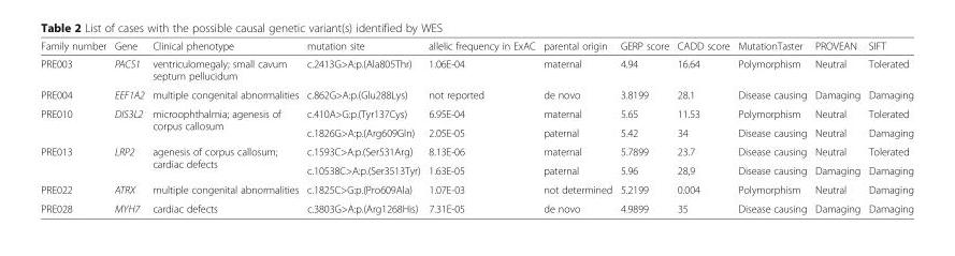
<table><thead><tr><td>Family number</td><td>Gene</td><td>Clinical phenotype</td><td>mutation site</td><td>allelic frequency in ExAC</td><td>parental origin</td><td>GERP score</td><td>CADD score</td><td>MutationTaster</td><td>PROVEAN</td><td>SIFT</td></tr></thead><tbody><tr><td>PRE003</td><td>PACS1</td><td>ventriculomegaly; small cavum septum pellucidum</td><td>c.2413G&gt;A:p.(Ala805Thr)</td><td>1.06E-04</td><td>maternal</td><td>4.94</td><td>16.64</td><td>Polymorphism</td><td>Neutral</td><td>Tolerated</td></tr><tr><td>PRE004</td><td>EEF1A2</td><td>multiple congenital abnormalities</td><td>c.862G&gt;A:p.(Glu288Lys)</td><td>not reported</td><td>de novo</td><td>3.8199</td><td>28.1</td><td>Disease causing</td><td>Damaging</td><td>Damaging</td></tr><tr><td rowspan="2">PRE010</td><td rowspan="2">DIS3L2</td><td rowspan="2">microophthalmia; agenesis of corpus callosum</td><td>c.410A&gt;G:p.(Tyr137Cys)</td><td>6.95E-04</td><td>maternal</td><td>5.65</td><td>11.53</td><td>Polymorphism</td><td>Neutral</td><td>Tolerated</td></tr><tr><td>c.1826G&gt;A:p.(Arg609Gln)</td><td>2.05E-05</td><td>paternal</td><td>5.42</td><td>34</td><td>Disease causing</td><td>Neutral</td><td>Damaging</td></tr><tr><td rowspan="2">PRE013</td><td rowspan="2">LRP2</td><td rowspan="2">agenesis of corpus callosum; cardiac defects</td><td>c.1593C&gt;A:p.(Ser531Arg)</td><td>8.13E-06</td><td>maternal</td><td>5.7899</td><td>23.7</td><td>Disease causing</td><td>Neutral</td><td>Tolerated</td></tr><tr><td>c.10538C&gt;A:p.(Ser3513Tyr)</td><td>1.63E-05</td><td>paternal</td><td>5.96</td><td>28,9</td><td>Disease causing</td><td>Damaging</td><td>Damaging</td></tr><tr><td>PRE022</td><td>ATRX</td><td>multiple congenital abnormalities</td><td>c.1825C&gt;G:p.(Pro609Ala)</td><td>1.07E-03</td><td>not determined</td><td>5.2199</td><td>0.004</td><td>Polymorphism</td><td>Neutral</td><td>Damaging</td></tr><tr><td>PRE028</td><td>MYH7</td><td>cardiac defects</td><td>c.3803G&gt;A:p.(Arg1268His)</td><td>7.31E-05</td><td>de novo</td><td>4.9899</td><td>35</td><td>Disease causing</td><td>Damaging</td><td>Damaging</td></tr></tbody></table>